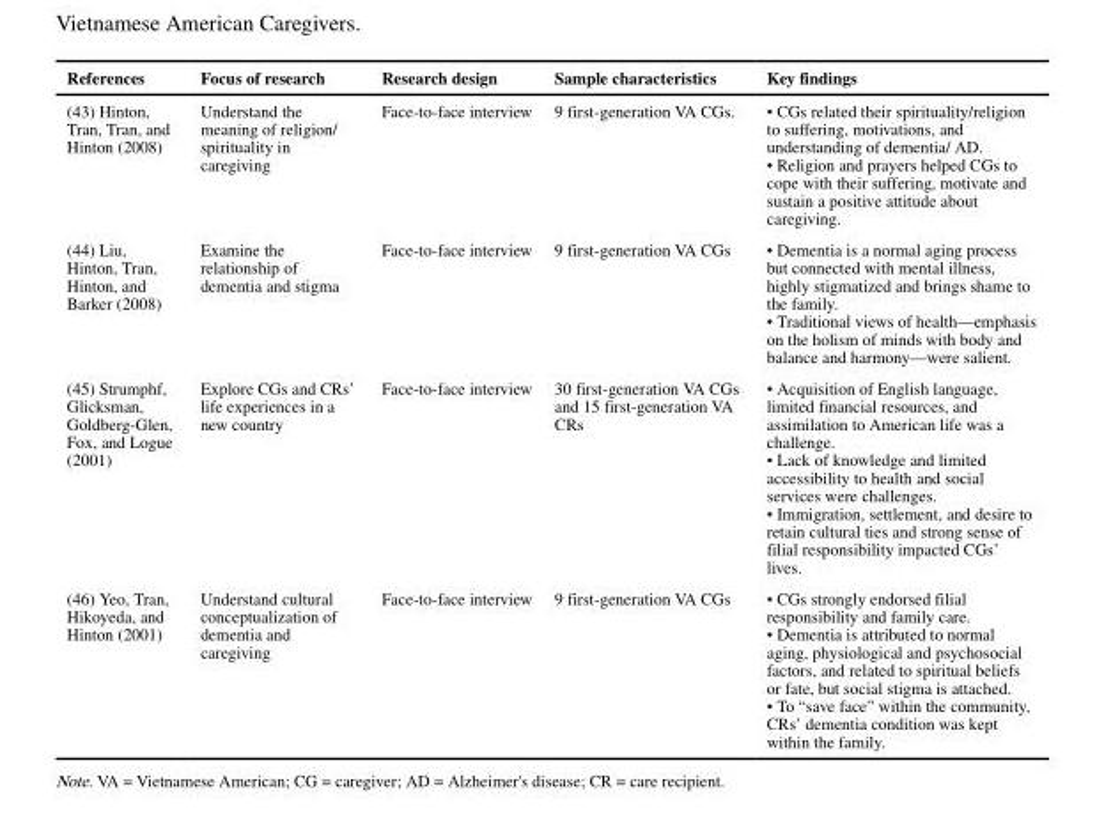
<table><thead><tr><td>References</td><td>Focus of research</td><td>Research design</td><td>Sample characteristics</td><td>Key findings</td></tr></thead><tbody><tr><td>(43) Hinton, Tran, Tran, and Hinton (2008)</td><td>Understand the meaning of religion/ spirituality in caregiving</td><td>Face-to-face interview</td><td>9 first-generation VA CGs.</td><td>• CGs related their spirituality/religion to suffering, motivations, and understanding of dementia/ AD. • Religion and prayers helped CGs to cope with their suffering, motivate and sustain a positive attitude about caregiving.</td></tr><tr><td>(44) Liu, Hinton, Tran, Hinton, and Barker (2008)</td><td>Examine the relationship of dementia and stigma</td><td>Face-to-face interview</td><td>9 first-generation VA CGs</td><td>• Dementia is a normal aging process but connected with mental illness, highly stigmatized and brings shame to the family. • Traditional views of health—emphasis on the holism of minds with body and balance and harmony—were salient.</td></tr><tr><td>(45) Strumphf, Glicksman, Goldberg-Glen, Fox, and Logue (2001)</td><td>Explore CGs and CRs’ life experiences in a new country</td><td>Face-to-face interview</td><td>30 first-generation VA CGs and 15 first-generation VA CRs</td><td>• Acquisition of English language, limited financial resources, and assimilation to American life was a challenge. • Lack of knowledge and limited accessibility to health and social services were challenges. • Immigration, settlement, and desire to retain cultural ties and strong sense of filial responsibility impacted CGs’ lives.</td></tr><tr><td>(46) Yeo, Tran, Hikoyeda, and Hinton (2001)</td><td>Understand cultural conceptualization of dementia and caregiving</td><td>Face-to-face interview</td><td>9 first-generation VA CGs</td><td>• CGs strongly endorsed filial responsibility and family care. • Dementia is attributed to normal aging, physiological and psychosocial factors, and related to spiritual beliefs or fate, but social stigma is attached. • To “save face” within the community, CRs’ dementia condition was kept within the family.</td></tr></tbody></table>